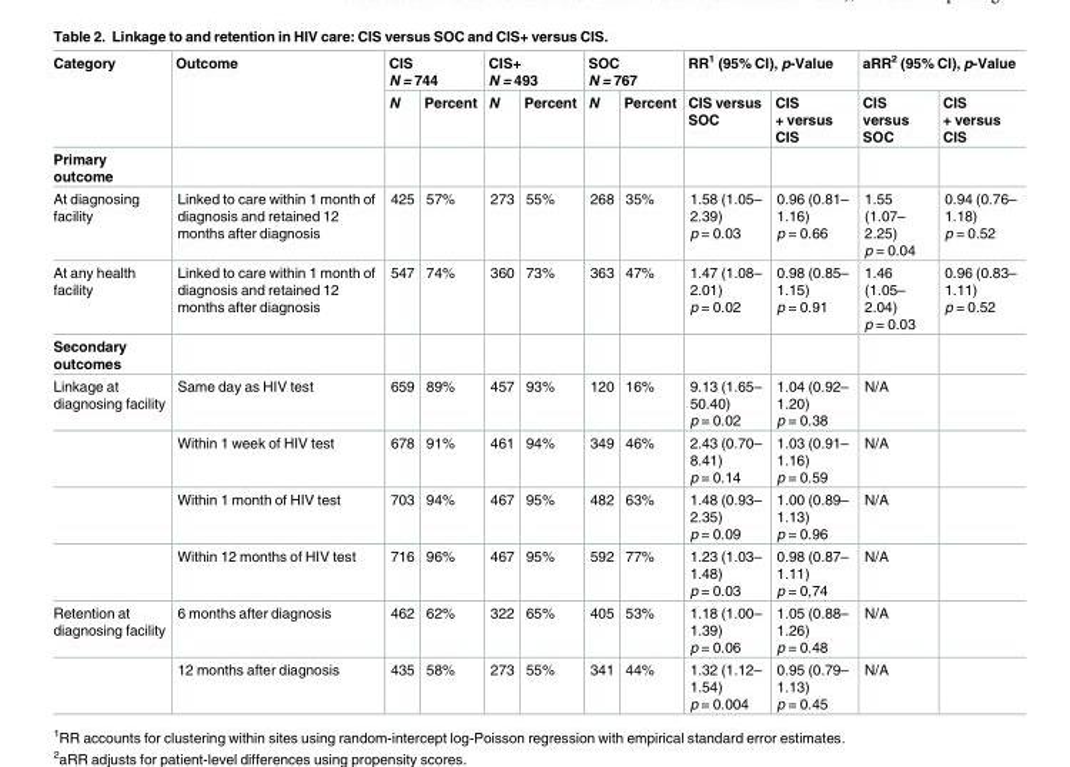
<table><thead><tr><td rowspan="2">Category</td><td rowspan="2">Outcome</td><td colspan="2">CIS N = 744</td><td colspan="2">CIS+ N = 493</td><td colspan="2">SOC N = 767</td><td colspan="2">RR<sup>1</sup> (95% CI), p-Value</td><td colspan="2">aRR<sup>2</sup> (95% CI), p-Value</td></tr><tr><td>N</td><td>Percent</td><td>N</td><td>Percent</td><td>N</td><td>Percent</td><td>CIS versus SOC</td><td>CIS + versus CIS</td><td>CIS versus SOC</td><td>CIS + versus CIS</td></tr></thead><tbody><tr><td colspan="12">Primary outcome</td></tr><tr><td>At diagnosing facility</td><td>Linked to care within 1 month of diagnosis and retained 12 months after diagnosis</td><td>425</td><td>57%</td><td>273</td><td>55%</td><td>268</td><td>35%</td><td>1.58 (1.05– 2.39) p = 0.03</td><td>0.96 (0.81– 1.16) p = 0.66</td><td>1.55 (1.07– 2.25) p = 0.04</td><td>0.94 (0.76– 1.18) p = 0.52</td></tr><tr><td>At any health facility</td><td>Linked to care within 1 month of diagnosis and retained 12 months after diagnosis</td><td>547</td><td>74%</td><td>360</td><td>73%</td><td>363</td><td>47%</td><td>1.47 (1.08– 2.01) p = 0.02</td><td>0.98 (0.85– 1.15) p = 0.91</td><td>1.46 (1.05– 2.04) p = 0.03</td><td>0.96 (0.83– 1.11) p = 0.52</td></tr><tr><td colspan="12">Secondary outcomes</td></tr><tr><td rowspan="4">Linkage at diagnosing facility</td><td>Same day as HIV test</td><td>659</td><td>89%</td><td>457</td><td>93%</td><td>120</td><td>16%</td><td>9.13 (1.65– 50.40) p = 0.02</td><td>1.04 (0.92– 1.20) p = 0.38</td><td>N/A</td><td></td></tr><tr><td>Within 1 week of HIV test</td><td>678</td><td>91%</td><td>461</td><td>94%</td><td>349</td><td>46%</td><td>2.43 (0.70– 8.41) p = 0.14</td><td>1.03 (0.91– 1.16) p = 0.59</td><td>N/A</td><td></td></tr><tr><td>Within 1 month of HIV test</td><td>703</td><td>94%</td><td>467</td><td>95%</td><td>482</td><td>63%</td><td>1.48 (0.93– 2.35) p = 0.09</td><td>1.00 (0.89– 1.13) p = 0.96</td><td>N/A</td><td></td></tr><tr><td>Within 12 months of HIV test</td><td>716</td><td>96%</td><td>467</td><td>95%</td><td>592</td><td>77%</td><td>1.23 (1.03– 1.48) p = 0.03</td><td>0.98 (0.87– 1.11) p = 0,74</td><td>N/A</td><td></td></tr><tr><td rowspan="2">Retention at diagnosing facility</td><td>6 months after diagnosis</td><td>462</td><td>62%</td><td>322</td><td>65%</td><td>405</td><td>53%</td><td>1.18 (1.00– 1.39) p = 0.06</td><td>1.05 (0.88– 1.26) p = 0.48</td><td>N/A</td><td></td></tr><tr><td>12 months after diagnosis</td><td>435</td><td>58%</td><td>273</td><td>55%</td><td>341</td><td>44%</td><td>1.32 (1.12– 1.54) p = 0.004</td><td>0.95 (0.79– 1.13) p = 0.45</td><td>N/A</td><td></td></tr></tbody></table>